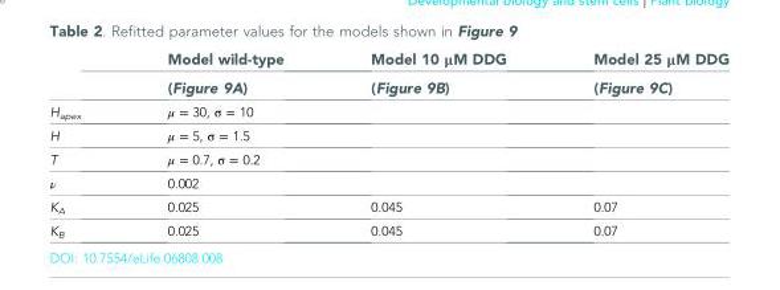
<table><thead><tr><td rowspan="2"></td><td rowspan="2">Model wild-type (Figure 9A)</td><td rowspan="2">Model 10 μM DDG (Figure 9B)</td><td rowspan="2">Model 25 μM DDG (Figure 9C)</td></tr><tr></tr></thead><tbody><tr><td>H<sub>apex</sub></td><td>μ = 30, σ = 10</td><td></td><td></td></tr><tr><td>H</td><td>μ = 5, σ = 1.5</td><td></td><td></td></tr><tr><td>T</td><td>μ = 0.7, σ = 0.2</td><td></td><td></td></tr><tr><td>ν</td><td>0.002</td><td></td><td></td></tr><tr><td>K<sub>A</sub></td><td>0.025</td><td>0.045</td><td>0.07</td></tr><tr><td>K<sub>B</sub></td><td>0.025</td><td>0.045</td><td>0.07</td></tr></tbody></table>